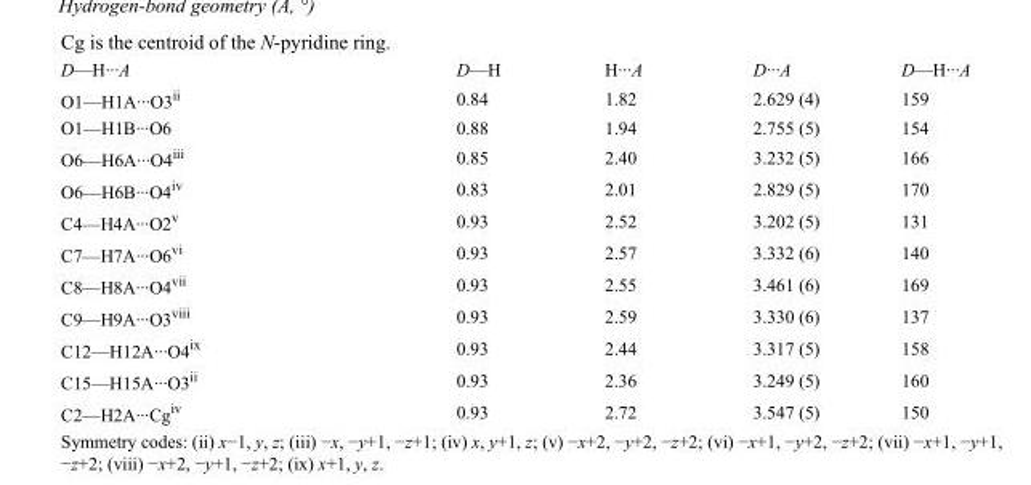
<table><tbody><tr><td>D—H···A</td><td>D—H</td><td>H···A</td><td>D···A</td><td>D—H···A</td></tr><tr><td>O1—H1A···O3<sup>ii</sup></td><td>0.84</td><td>1.82</td><td>2.629 (4)</td><td>159</td></tr><tr><td>O1—H1B···O6</td><td>0.88</td><td>1.94</td><td>2.755 (5)</td><td>154</td></tr><tr><td>O6—H6A···O4<sup>iii</sup></td><td>0.85</td><td>2.40</td><td>3.232 (5)</td><td>166</td></tr><tr><td>O6—H6B···O4<sup>iv</sup></td><td>0.83</td><td>2.01</td><td>2.829 (5)</td><td>170</td></tr><tr><td>C4—H4A···O2<sup>v</sup></td><td>0.93</td><td>2.52</td><td>3.202 (5)</td><td>131</td></tr><tr><td>C7—H7A···O6<sup>vi</sup></td><td>0.93</td><td>2.57</td><td>3.332 (6)</td><td>140</td></tr><tr><td>C8—H8A···O4<sup>vii</sup></td><td>0.93</td><td>2.55</td><td>3.461 (6)</td><td>169</td></tr><tr><td>C9—H9A···O3<sup>viii</sup></td><td>0.93</td><td>2.59</td><td>3.330 (6)</td><td>137</td></tr><tr><td>C12—H12A···O4<sup>ix</sup></td><td>0.93</td><td>2.44</td><td>3.317 (5)</td><td>158</td></tr><tr><td>C15—H15A···O3<sup>ii</sup></td><td>0.93</td><td>2.36</td><td>3.249 (5)</td><td>160</td></tr><tr><td>C2—H2A···Cg<sup>iv</sup></td><td>0.93</td><td>2.72</td><td>3.547 (5)</td><td>150</td></tr></tbody></table>